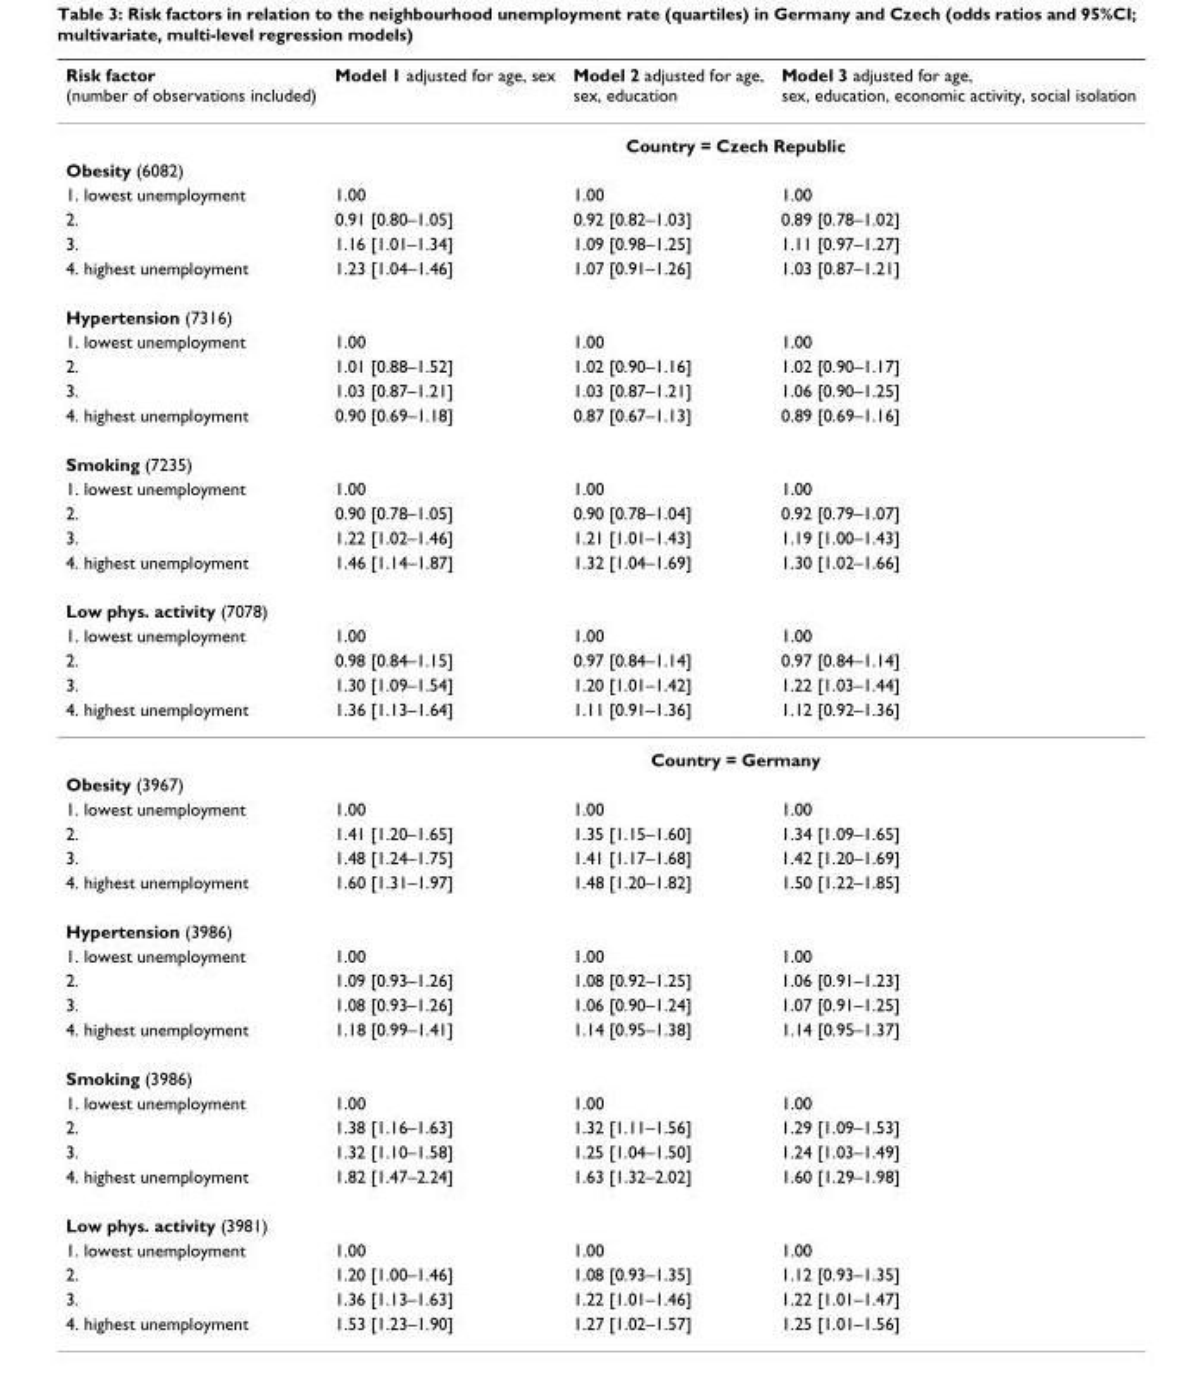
<table><thead><tr><td>Risk factor (number of observations included)</td><td>Model 1 adjusted for age, sex</td><td>Model 2 adjusted for age, sex, education</td><td>Model 3 adjusted for age, sex, education, economic activity, social isolation</td></tr></thead><tbody><tr><td></td><td colspan="3">Country = Czech Republic</td></tr><tr><td colspan="4">Obesity (6082)</td></tr><tr><td>1. lowest unemployment</td><td>1.00</td><td>1.00</td><td>1.00</td></tr><tr><td>2.</td><td>0.91 [0.80–1.05]</td><td>0.92 [0.82–1.03]</td><td>0.89 [0.78–1.02]</td></tr><tr><td>3.</td><td>1.16 [1.01–1.34]</td><td>1.09 [0.98–1.25]</td><td>1.11 [0.97–1.27]</td></tr><tr><td>4. highest unemployment</td><td>1.23 [1.04–1.46]</td><td>1.07 [0.91–1.26]</td><td>1.03 [0.87–1.21]</td></tr><tr><td colspan="4">Hypertension (7316)</td></tr><tr><td>1. lowest unemployment</td><td>1.00</td><td>1.00</td><td>1.00</td></tr><tr><td>2.</td><td>1.01 [0.88–1.52]</td><td>1.02 [0.90–1.16]</td><td>1.02 [0.90–1.17]</td></tr><tr><td>3.</td><td>1.03 [0.87–1.21]</td><td>1.03 [0.87–1.21]</td><td>1.06 [0.90–1.25]</td></tr><tr><td>4. highest unemployment</td><td>0.90 [0.69–1.18]</td><td>0.87 [0.67–1.13]</td><td>0.89 [0.69–1.16]</td></tr><tr><td colspan="4">Smoking (7235)</td></tr><tr><td>1. lowest unemployment</td><td>1.00</td><td>1.00</td><td>1.00</td></tr><tr><td>2.</td><td>0.90 [0.78–1.05]</td><td>0.90 [0.78–1.04]</td><td>0.92 [0.79–1.07]</td></tr><tr><td>3.</td><td>1.22 [1.02–1.46]</td><td>1.21 [1.01–1.43]</td><td>1.19 [1.00–1.43]</td></tr><tr><td>4. highest unemployment</td><td>1.46 [1.14–1.87]</td><td>1.32 [1.04–1.69]</td><td>1.30 [1.02–1.66]</td></tr><tr><td colspan="4">Low phys. activity (7078)</td></tr><tr><td>1. lowest unemployment</td><td>1.00</td><td>1.00</td><td>1.00</td></tr><tr><td>2.</td><td>0.98 [0.84–1.15]</td><td>0.97 [0.84–1.14]</td><td>0.97 [0.84–1.14]</td></tr><tr><td>3.</td><td>1.30 [1.09–1.54]</td><td>1.20 [1.01–1.42]</td><td>1.22 [1.03–1.44]</td></tr><tr><td rowspan="2">4. highest unemployment</td><td>1.36 [1.13–1.64]</td><td>1.11 [0.91–1.36]</td><td>1.12 [0.92–1.36]</td></tr><tr><td colspan="3">Country = Germany</td></tr><tr><td colspan="4">Obesity (3967)</td></tr><tr><td>1. lowest unemployment</td><td>1.00</td><td>1.00</td><td>1.00</td></tr><tr><td>2.</td><td>1.41 [1.20–1.65]</td><td>1.35 [1.15–1.60]</td><td>1.34 [1.09–1.65]</td></tr><tr><td>3.</td><td>1.48 [1.24–1.75]</td><td>1.41 [1.17–1.68]</td><td>1.42 [1.20–1.69]</td></tr><tr><td>4. highest unemployment</td><td>1.60 [1.31–1.97]</td><td>1.48 [1.20–1.82]</td><td>1.50 [1.22–1.85]</td></tr><tr><td colspan="4">Hypertension (3986)</td></tr><tr><td>1. lowest unemployment</td><td>1.00</td><td>1.00</td><td>1.00</td></tr><tr><td>2.</td><td>1.09 [0.93–1.26]</td><td>1.08 [0.92–1.25]</td><td>1.06 [0.91–1.23]</td></tr><tr><td>3.</td><td>1.08 [0.93–1.26]</td><td>1.06 [0.90–1.24]</td><td>1.07 [0.91–1.25]</td></tr><tr><td>4. highest unemployment</td><td>1.18 [0.99–1.41]</td><td>1.14 [0.95–1.38]</td><td>1.14 [0.95–1.37]</td></tr><tr><td colspan="4">Smoking (3986)</td></tr><tr><td>1. lowest unemployment</td><td>1.00</td><td>1.00</td><td>1.00</td></tr><tr><td>2.</td><td>1.38 [1.16–1.63]</td><td>1.32 [1.11–1.56]</td><td>1.29 [1.09–1.53]</td></tr><tr><td>3.</td><td>1.32 [1.10–1.58]</td><td>1.25 [1.04–1.50]</td><td>1.24 [1.03–1.49]</td></tr><tr><td>4. highest unemployment</td><td>1.82 [1.47–2.24]</td><td>1.63 [1.32–2.02]</td><td>1.60 [1.29–1.98]</td></tr><tr><td colspan="4">Low phys. activity (3981)</td></tr><tr><td>1. lowest unemployment</td><td>1.00</td><td>1.00</td><td>1.00</td></tr><tr><td>2.</td><td>1.20 [1.00–1.46]</td><td>1.08 [0.93–1.35]</td><td>1.12 [0.93–1.35]</td></tr><tr><td>3.</td><td>1.36 [1.13–1.63]</td><td>1.22 [1.01–1.46]</td><td>1.22 [1.01–1.47]</td></tr><tr><td>4. highest unemployment</td><td>1.53 [1.23–1.90]</td><td>1.27 [1.02–1.57]</td><td>1.25 [1.01–1.56]</td></tr></tbody></table>